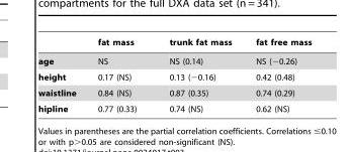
<table><thead><tr><td></td><td>fat mass</td><td>trunk fat mass</td><td>fat free mass</td></tr></thead><tbody><tr><td>age</td><td>NS</td><td>NS (0.14)</td><td>NS (−0.26)</td></tr><tr><td>height</td><td>0.17 (NS)</td><td>0.13 (−0.16)</td><td>0.42 (0.48)</td></tr><tr><td>waistline</td><td>0.84 (NS)</td><td>0.87 (0.35)</td><td>0.74 (0.29)</td></tr><tr><td>hipline</td><td>0.77 (0.33)</td><td>0.74 (NS)</td><td>0.62 (NS)</td></tr></tbody></table>